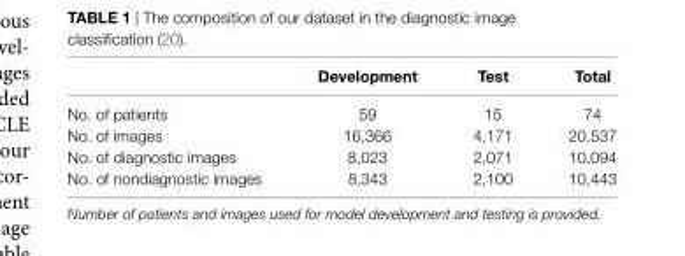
<table><thead><tr><td></td><td>Development</td><td>Test</td><td>Total</td></tr></thead><tbody><tr><td>No. of patients</td><td>59</td><td>15</td><td>74</td></tr><tr><td>No. of images</td><td>16,366</td><td>4,171</td><td>20,537</td></tr><tr><td>No. of diagnostic images</td><td>8,023</td><td>2,071</td><td>10,094</td></tr><tr><td>No. of nondiagnostic images</td><td>8,343</td><td>2,100</td><td>10,443</td></tr></tbody></table>